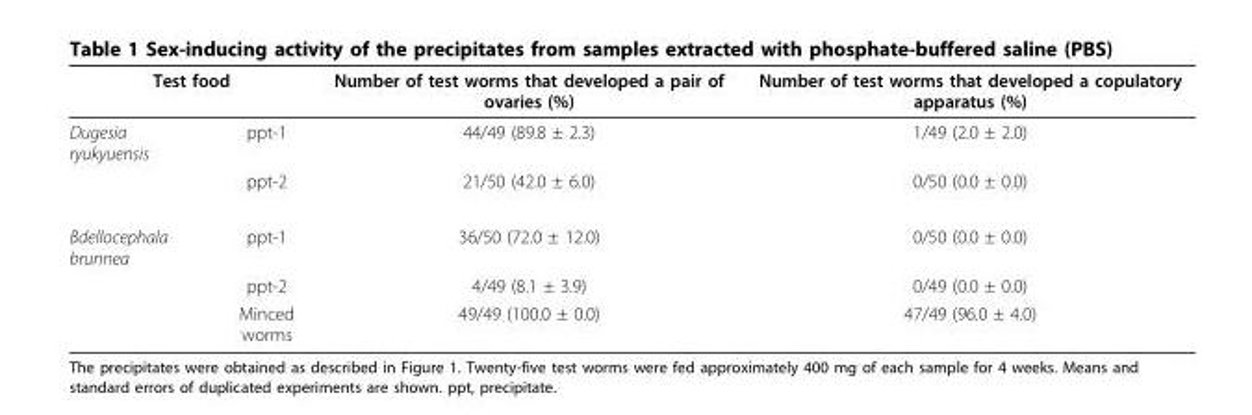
<table><thead><tr><td colspan="2">Test food</td><td rowspan="2">Number of test worms that developed a pair of ovaries (%) 44/49 (89.8 ± 2.3)</td><td rowspan="2">Number of test worms that developed a copulatory apparatus (%) 1/49 (2.0 ± 2.0)</td></tr><tr><td>Dugesia ryukyuensis</td><td>ppt-1</td></tr></thead><tbody><tr><td></td><td>ppt-2</td><td>21/50 (42.0 ± 6.0)</td><td>0/50 (0.0 ± 0.0)</td></tr><tr><td rowspan="3">Bdellocephala brunnea</td><td>ppt-1</td><td>36/50 (72.0 ± 12.0)</td><td>0/50 (0.0 ± 0.0)</td></tr><tr><td>ppt-2</td><td>4/49 (8.1 ± 3.9)</td><td>0/49 (0.0 ± 0.0)</td></tr><tr><td>Minced worms</td><td>49/49 (100.0 ± 0.0)</td><td>47/49 (96.0 ± 4.0)</td></tr></tbody></table>